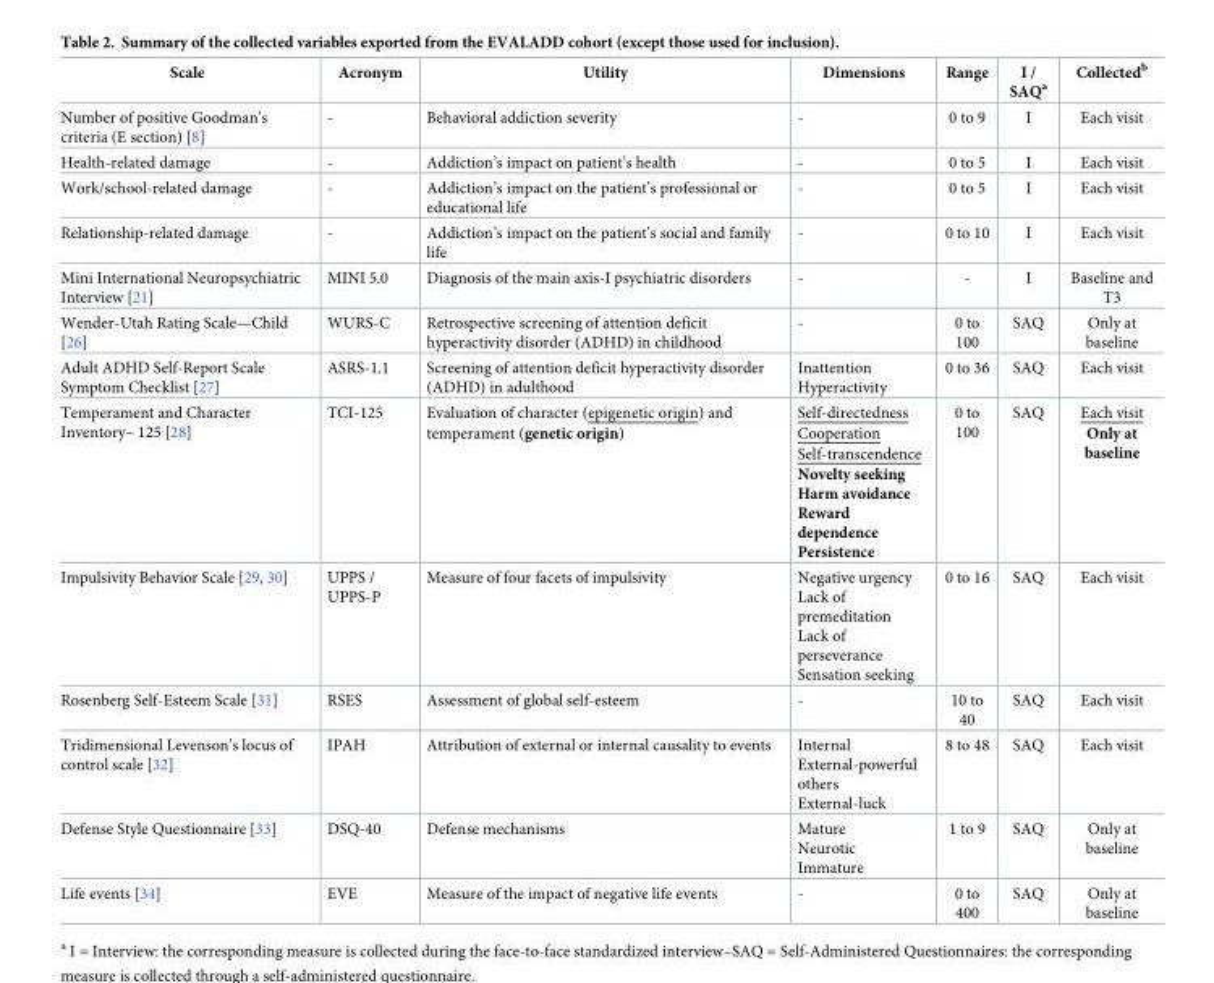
<table><thead><tr><td>Scale</td><td>Acronym</td><td>Utility</td><td>Dimensions</td><td>Range</td><td>I / SAQ<sup>a</sup></td><td>Collected<sup>b</sup></td></tr></thead><tbody><tr><td>Number of positive Goodman’s criteria (E section) [8]</td><td>-</td><td>Behavioral addiction severity</td><td>-</td><td>0 to 9</td><td>I</td><td>Each visit</td></tr><tr><td>Health-related damage</td><td>-</td><td>Addiction’s impact on patient’s health</td><td>-</td><td>0 to 5</td><td>I</td><td>Each visit</td></tr><tr><td>Work/school-related damage</td><td>-</td><td>Addiction’s impact on the patient’s professional or educational life</td><td>-</td><td>0 to 5</td><td>I</td><td>Each visit</td></tr><tr><td>Relationship-related damage</td><td>-</td><td>Addiction’s impact on the patient’s social and family life</td><td>-</td><td>0 to 10</td><td>I</td><td>Each visit</td></tr><tr><td>Mini International Neuropsychiatric Interview [21]</td><td>MINI 5.0</td><td>Diagnosis of the main axis-I psychiatric disorders</td><td>-</td><td>-</td><td>I</td><td>Baseline and T3</td></tr><tr><td>Wender-Utah Rating Scale—Child [26]</td><td>WURS-C</td><td>Retrospective screening of attention deficit hyperactivity disorder (ADHD) in childhood</td><td>-</td><td>0 to 100</td><td>SAQ</td><td>Only at baseline</td></tr><tr><td>Adult ADHD Self-Report Scale Symptom Checklist [27]</td><td>ASRS-1.1</td><td>Screening of attention deficit hyperactivity disorder (ADHD) in adulthood</td><td>Inattention Hyperactivity</td><td>0 to 36</td><td>SAQ</td><td>Each visit</td></tr><tr><td>Temperament and Character Inventory– 125 [28]</td><td>TCI-125</td><td>Evaluation of character (epigenetic origin) and temperament (genetic origin)</td><td>Self-directedness Cooperation Self-transcendence Novelty seeking Harm avoidance Reward dependence Persistence</td><td>0 to 100</td><td>SAQ</td><td>Each visit Only at baseline</td></tr><tr><td>Impulsivity Behavior Scale [29, 30]</td><td>UPPS / UPPS-P</td><td>Measure of four facets of impulsivity</td><td>Negative urgency Lack of premeditation Lack of perseverance Sensation seeking</td><td>0 to 16</td><td>SAQ</td><td>Each visit</td></tr><tr><td>Rosenberg Self-Esteem Scale [31]</td><td>RSES</td><td>Assessment of global self-esteem</td><td>-</td><td>10 to 40</td><td>SAQ</td><td>Each visit</td></tr><tr><td>Tridimensional Levenson’s locus of control scale [32]</td><td>IPAH</td><td>Attribution of external or internal causality to events</td><td>Internal External-powerful others External-luck</td><td>8 to 48</td><td>SAQ</td><td>Each visit</td></tr><tr><td>Defense Style Questionnaire [33]</td><td>DSQ-40</td><td>Defense mechanisms</td><td>Mature Neurotic Immature</td><td>1 to 9</td><td>SAQ</td><td>Only at baseline</td></tr><tr><td>Life events [34]</td><td>EVE</td><td>Measure of the impact of negative life events</td><td>-</td><td>0 to 400</td><td>SAQ</td><td>Only at baseline</td></tr></tbody></table>